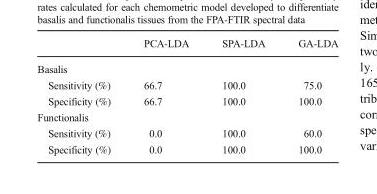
<table><thead><tr><td></td><td>PCA-LDA</td><td>SPA-LDA</td><td>GA-LDA</td></tr></thead><tbody><tr><td colspan="4">Basalis</td></tr><tr><td>Sensitivity (%)</td><td>66.7</td><td>100.0</td><td>75.0</td></tr><tr><td>Specificity (%)</td><td>66.7</td><td>100.0</td><td>100.0</td></tr><tr><td colspan="4">Functionalis</td></tr><tr><td>Sensitivity (%)</td><td>0.0</td><td>100.0</td><td>60.0</td></tr><tr><td>Specificity (%)</td><td>0.0</td><td>100.0</td><td>100.0</td></tr></tbody></table>